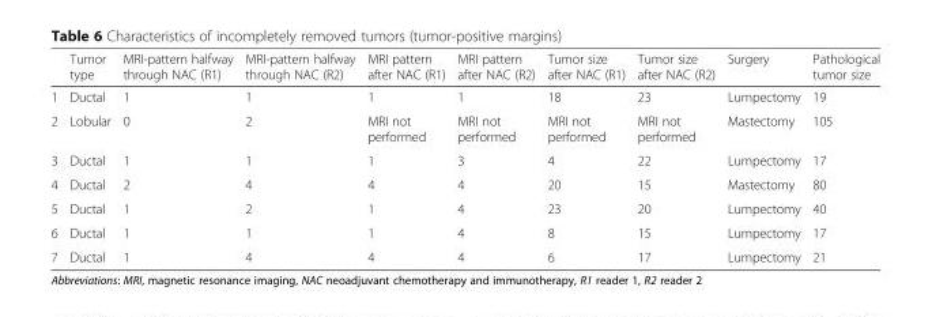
<table><thead><tr><td></td><td>Tumor type</td><td>MRI-pattern halfway through NAC (R1)</td><td>MRI-pattern halfway through NAC (R2)</td><td>MRI pattern after NAC (R1)</td><td>MRI pattern after NAC (R2)</td><td>Tumor size after NAC (R1)</td><td>Tumor size after NAC (R2)</td><td>Surgery</td><td>Pathological tumor size</td></tr></thead><tbody><tr><td>1</td><td>Ductal</td><td>1</td><td>1</td><td>1</td><td>1</td><td>18</td><td>23</td><td>Lumpectomy</td><td>19</td></tr><tr><td>2</td><td>Lobular</td><td>0</td><td>2</td><td>MRI not performed</td><td>MRI not performed</td><td>MRI not performed</td><td>MRI not performed</td><td>Mastectomy</td><td>105</td></tr><tr><td>3</td><td>Ductal</td><td>1</td><td>1</td><td>1</td><td>3</td><td>4</td><td>22</td><td>Lumpectomy</td><td>17</td></tr><tr><td>4</td><td>Ductal</td><td>2</td><td>4</td><td>4</td><td>4</td><td>20</td><td>15</td><td>Mastectomy</td><td>80</td></tr><tr><td>5</td><td>Ductal</td><td>1</td><td>2</td><td>1</td><td>4</td><td>23</td><td>20</td><td>Lumpectomy</td><td>40</td></tr><tr><td>6</td><td>Ductal</td><td>1</td><td>1</td><td>1</td><td>4</td><td>8</td><td>15</td><td>Lumpectomy</td><td>17</td></tr><tr><td>7</td><td>Ductal</td><td>1</td><td>4</td><td>4</td><td>4</td><td>6</td><td>17</td><td>Lumpectomy</td><td>21</td></tr></tbody></table>